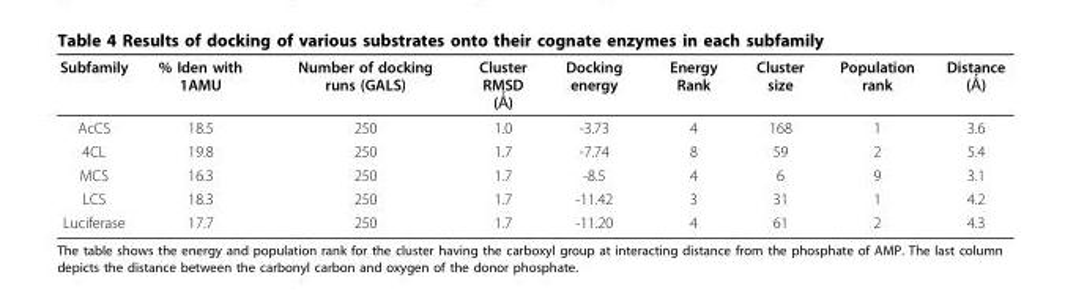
<table><thead><tr><td>Subfamily</td><td>% Iden with 1AMU</td><td>Number of docking runs (GALS)</td><td>Cluster RMSD (Ǻ)</td><td>Docking energy</td><td>Energy Rank</td><td>Cluster size</td><td>Population rank</td><td>Distance (Ǻ)</td></tr></thead><tbody><tr><td>AcCS</td><td>18.5</td><td>250</td><td>1.0</td><td>-3.73</td><td>4</td><td>168</td><td>1</td><td>3.6</td></tr><tr><td>4CL</td><td>19.8</td><td>250</td><td>1.7</td><td>-7.74</td><td>8</td><td>59</td><td>2</td><td>5.4</td></tr><tr><td>MCS</td><td>16.3</td><td>250</td><td>1.7</td><td>-8.5</td><td>4</td><td>6</td><td>9</td><td>3.1</td></tr><tr><td>LCS</td><td>18.3</td><td>250</td><td>1.7</td><td>-11.42</td><td>3</td><td>31</td><td>1</td><td>4.2</td></tr><tr><td>Luciferase</td><td>17.7</td><td>250</td><td>1.7</td><td>-11.20</td><td>4</td><td>61</td><td>2</td><td>4.3</td></tr></tbody></table>